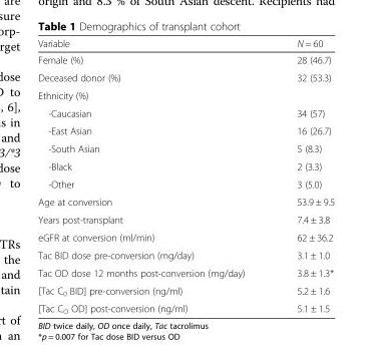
<table><thead><tr><td>Variable</td><td>N = 60</td></tr></thead><tbody><tr><td>Female (%)</td><td>28 (46.7)</td></tr><tr><td>Deceased donor (%)</td><td>32 (53.3)</td></tr><tr><td colspan="2">Ethnicity (%)</td></tr><tr><td>-Caucasian</td><td>34 (57)</td></tr><tr><td>-East Asian</td><td>16 (26.7)</td></tr><tr><td>-South Asian</td><td>5 (8.3)</td></tr><tr><td>-Black</td><td>2 (3.3)</td></tr><tr><td>-Other</td><td>3 (5.0)</td></tr><tr><td>Age at conversion</td><td>53.9 ± 9.5</td></tr><tr><td>Years post-transplant</td><td>7.4 ± 3.8</td></tr><tr><td>eGFR at conversion (ml/min)</td><td>62 ± 36.2</td></tr><tr><td>Tac BID dose pre-conversion (mg/day)</td><td>3.1 ± 1.0</td></tr><tr><td>Tac OD dose 12 months post-conversion (mg/day)</td><td>3.8 ± 1.3*</td></tr><tr><td>[Tac C<sub>0</sub> BID] pre-conversion (ng/ml)</td><td>5.2 ± 1.6</td></tr><tr><td>[Tac C<sub>O</sub> OD] post-conversion (ng/ml)</td><td>5.1 ± 1.5</td></tr></tbody></table>